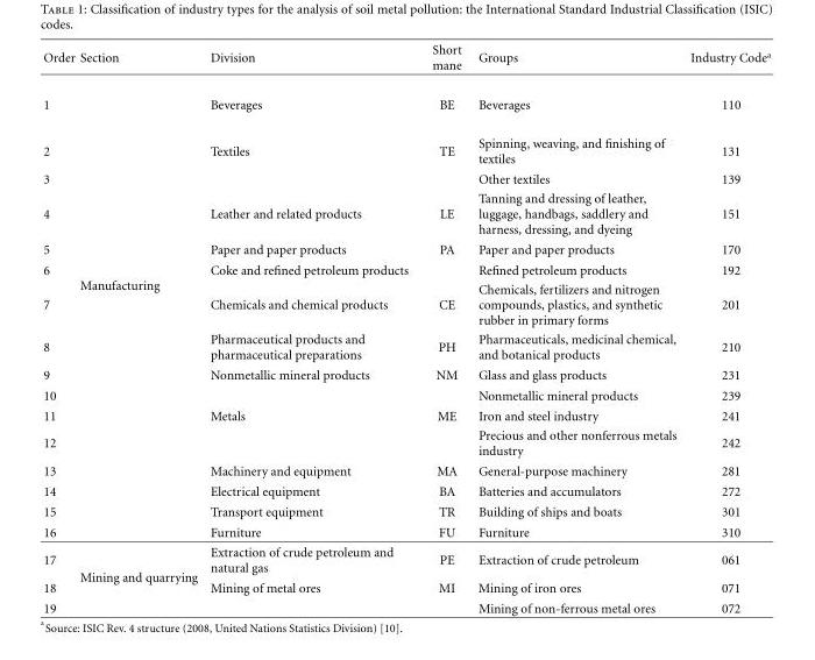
<table><thead><tr><td>Order</td><td>Section</td><td>Division</td><td>Short mane</td><td>Groups</td><td>Industry Code<sup>a</sup></td></tr></thead><tbody><tr><td>1</td><td rowspan="16">Manufacturing</td><td>Beverages</td><td>BE</td><td>Beverages</td><td>110</td></tr><tr><td>2</td><td>Textiles</td><td>TE</td><td>Spinning, weaving, and finishing of textiles</td><td>131</td></tr><tr><td>3</td><td></td><td></td><td>Other textiles</td><td>139</td></tr><tr><td>4</td><td>Leather and related products</td><td>LE</td><td>Tanning and dressing of leather, luggage, handbags, saddlery and harness, dressing, and dyeing</td><td>151</td></tr><tr><td>5</td><td>Paper and paper products</td><td>PA</td><td>Paper and paper products</td><td>170</td></tr><tr><td>6</td><td>Coke and refined petroleum products</td><td></td><td>Refined petroleum products</td><td>192</td></tr><tr><td>7</td><td>Chemicals and chemical products</td><td>CE</td><td>Chemicals, fertilizers and nitrogen compounds, plastics, and synthetic rubber in primary forms</td><td>201</td></tr><tr><td>8</td><td>Pharmaceutical products and pharmaceutical preparations</td><td>PH</td><td>Pharmaceuticals, medicinal chemical, and botanical products</td><td>210</td></tr><tr><td>9</td><td>Nonmetallic mineral products</td><td>NM</td><td>Glass and glass products</td><td>231</td></tr><tr><td>10</td><td></td><td></td><td>Nonmetallic mineral products</td><td>239</td></tr><tr><td>11</td><td>Metals</td><td>ME</td><td>Iron and steel industry</td><td>241</td></tr><tr><td>12</td><td></td><td></td><td>Precious and other nonferrous metals industry</td><td>242</td></tr><tr><td>13</td><td>Machinery and equipment</td><td>MA</td><td>General-purpose machinery</td><td>281</td></tr><tr><td>14</td><td>Electrical equipment</td><td>BA</td><td>Batteries and accumulators</td><td>272</td></tr><tr><td>15</td><td>Transport equipment</td><td>TR</td><td>Building of ships and boats</td><td>301</td></tr><tr><td>16</td><td>Furniture</td><td>FU</td><td>Furniture</td><td>310</td></tr><tr><td>17</td><td rowspan="3">Mining and quarrying</td><td>Extraction of crude petroleum and natural gas</td><td>PE</td><td>Extraction of crude petroleum</td><td>061</td></tr><tr><td>18</td><td>Mining of metal ores</td><td>MI</td><td>Mining of iron ores</td><td>071</td></tr><tr><td>19</td><td></td><td></td><td>Mining of non-ferrous metal ores</td><td>072</td></tr></tbody></table>